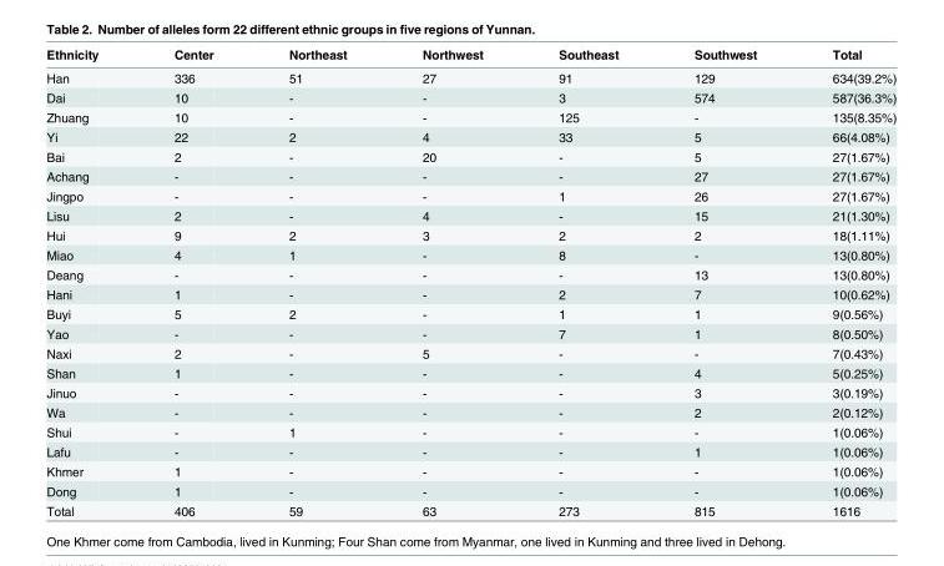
<table><thead><tr><td>Ethnicity</td><td>Center</td><td>Northeast</td><td>Northwest</td><td>Southeast</td><td>Southwest</td><td>Total</td></tr></thead><tbody><tr><td>Han</td><td>336</td><td>51</td><td>27</td><td>91</td><td>129</td><td>634(39.2%)</td></tr><tr><td>Dai</td><td>10</td><td>-</td><td>-</td><td>3</td><td>574</td><td>587(36.3%)</td></tr><tr><td>Zhuang</td><td>10</td><td>-</td><td>-</td><td>125</td><td>-</td><td>135(8.35%)</td></tr><tr><td>Yi</td><td>22</td><td>2</td><td>4</td><td>33</td><td>5</td><td>66(4.08%)</td></tr><tr><td>Bai</td><td>2</td><td>-</td><td>20</td><td>-</td><td>5</td><td>27(1.67%)</td></tr><tr><td>Achang</td><td>-</td><td>-</td><td>-</td><td>-</td><td>27</td><td>27(1.67%)</td></tr><tr><td>Jingpo</td><td>-</td><td>-</td><td>-</td><td>1</td><td>26</td><td>27(1.67%)</td></tr><tr><td>Lisu</td><td>2</td><td>-</td><td>4</td><td>-</td><td>15</td><td>21(1.30%)</td></tr><tr><td>Hui</td><td>9</td><td>2</td><td>3</td><td>2</td><td>2</td><td>18(1.11%)</td></tr><tr><td>Miao</td><td>4</td><td>1</td><td>-</td><td>8</td><td>-</td><td>13(0.80%)</td></tr><tr><td>Deang</td><td>-</td><td>-</td><td>-</td><td>-</td><td>13</td><td>13(0.80%)</td></tr><tr><td>Hani</td><td>1</td><td>-</td><td>-</td><td>2</td><td>7</td><td>10(0.62%)</td></tr><tr><td>Buyi</td><td>5</td><td>2</td><td>-</td><td>1</td><td>1</td><td>9(0.56%)</td></tr><tr><td>Yao</td><td>-</td><td>-</td><td>-</td><td>7</td><td>1</td><td>8(0.50%)</td></tr><tr><td>Naxi</td><td>2</td><td>-</td><td>5</td><td>-</td><td>-</td><td>7(0.43%)</td></tr><tr><td>Shan</td><td>1</td><td>-</td><td>-</td><td>-</td><td>4</td><td>5(0.25%)</td></tr><tr><td>Jinuo</td><td>-</td><td>-</td><td>-</td><td>-</td><td>3</td><td>3(0.19%)</td></tr><tr><td>Wa</td><td>-</td><td>-</td><td>-</td><td>-</td><td>2</td><td>2(0.12%)</td></tr><tr><td>Shui</td><td>-</td><td>1</td><td>-</td><td>-</td><td>-</td><td>1(0.06%)</td></tr><tr><td>Lafu</td><td>-</td><td>-</td><td>-</td><td>-</td><td>1</td><td>1(0.06%)</td></tr><tr><td>Khmer</td><td>1</td><td>-</td><td>-</td><td>-</td><td>-</td><td>1(0.06%)</td></tr><tr><td>Dong</td><td>1</td><td>-</td><td>-</td><td>-</td><td>-</td><td>1(0.06%)</td></tr><tr><td>Total</td><td>406</td><td>59</td><td>63</td><td>273</td><td>815</td><td>1616</td></tr></tbody></table>